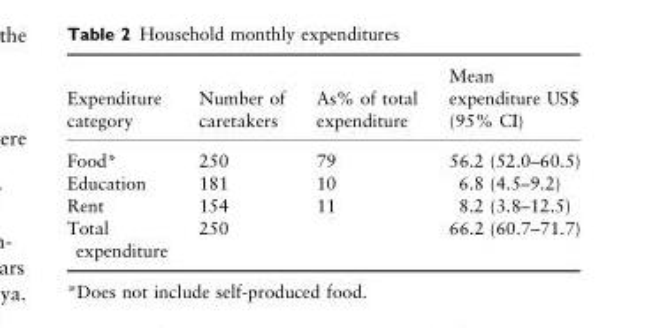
<table><thead><tr><td>Expenditure category</td><td>Number of caretakers</td><td>As% of total expenditure</td><td>Mean expenditure US$ (95% CI)</td></tr></thead><tbody><tr><td>Food*</td><td>250</td><td>79</td><td>56.2 (52.0–60.5)</td></tr><tr><td>Education</td><td>181</td><td>10</td><td>6.8 (4.5–9.2)</td></tr><tr><td>Rent</td><td>154</td><td>11</td><td>8.2 (3.8–12.5)</td></tr><tr><td>Total expenditure</td><td>250</td><td></td><td>66.2 (60.7–71.7)</td></tr></tbody></table>